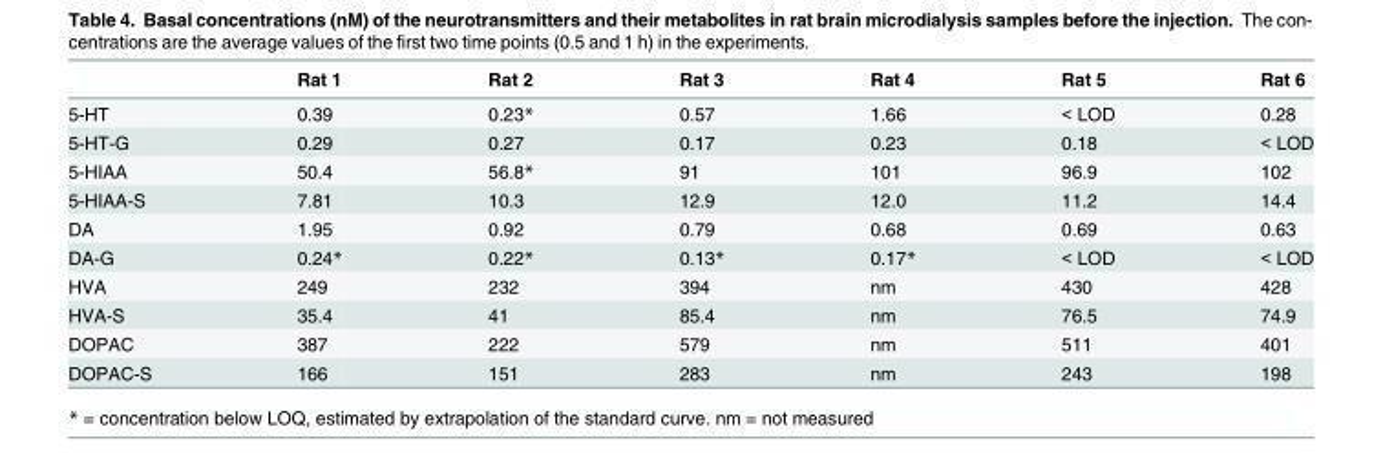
<table><thead><tr><td></td><td>Rat 1</td><td>Rat 2</td><td>Rat 3</td><td>Rat 4</td><td>Rat 5</td><td>Rat 6</td></tr></thead><tbody><tr><td>5-HT</td><td>0.39</td><td>0.23*</td><td>0.57</td><td>1.66</td><td>&lt; LOD</td><td>0.28</td></tr><tr><td>5-HT-G</td><td>0.29</td><td>0.27</td><td>0.17</td><td>0.23</td><td>0.18</td><td>&lt; LOD</td></tr><tr><td>5-HIAA</td><td>50.4</td><td>56.8*</td><td>91</td><td>101</td><td>96.9</td><td>102</td></tr><tr><td>5-HIAA-S</td><td>7.81</td><td>10.3</td><td>12.9</td><td>12.0</td><td>11.2</td><td>14.4</td></tr><tr><td>DA</td><td>1.95</td><td>0.92</td><td>0.79</td><td>0.68</td><td>0.69</td><td>0.63</td></tr><tr><td>DA-G</td><td>0.24*</td><td>0.22*</td><td>0.13*</td><td>0.17*</td><td>&lt; LOD</td><td>&lt; LOD</td></tr><tr><td>HVA</td><td>249</td><td>232</td><td>394</td><td>nm</td><td>430</td><td>428</td></tr><tr><td>HVA-S</td><td>35.4</td><td>41</td><td>85.4</td><td>nm</td><td>76.5</td><td>74.9</td></tr><tr><td>DOPAC</td><td>387</td><td>222</td><td>579</td><td>nm</td><td>511</td><td>401</td></tr><tr><td>DOPAC-S</td><td>166</td><td>151</td><td>283</td><td>nm</td><td>243</td><td>198</td></tr></tbody></table>